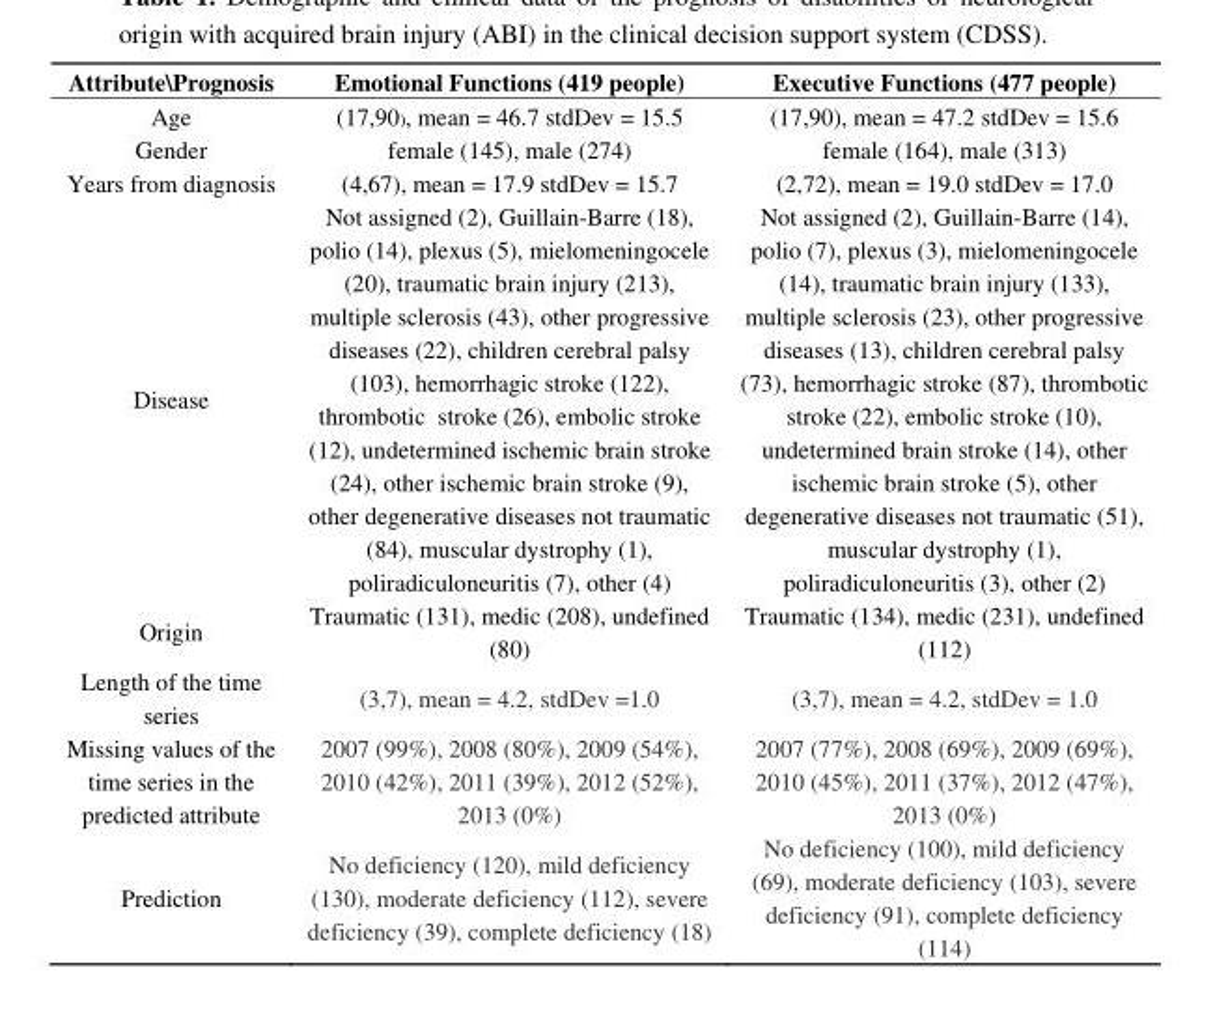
<table><thead><tr><td>Attribute\Prognosis</td><td>Emotional Functions (419 people)</td><td>Executive Functions (477 people)</td></tr></thead><tbody><tr><td>Age</td><td>(17,90), mean = 46.7 stdDev = 15.5</td><td>(17,90), mean = 47.2 stdDev = 15.6</td></tr><tr><td>Gender</td><td>female (145), male (274)</td><td>female (164), male (313)</td></tr><tr><td>Years from diagnosis</td><td>(4,67), mean = 17.9 stdDev = 15.7</td><td>(2,72), mean = 19.0 stdDev = 17.0</td></tr><tr><td>Disease</td><td>Not assigned (2), Guillain-Barre (18), polio (14), plexus (5), mielomeningocele (20), traumatic brain injury (213), multiple sclerosis (43), other progressive diseases (22), children cerebral palsy (103), hemorrhagic stroke (122), thrombotic stroke (26), embolic stroke (12), undetermined ischemic brain stroke (24), other ischemic brain stroke (9), other degenerative diseases not traumatic (84), muscular dystrophy (1), poliradiculoneuritis (7), other (4)</td><td>Not assigned (2), Guillain-Barre (14), polio (7), plexus (3), mielomeningocele (14), traumatic brain injury (133), multiple sclerosis (23), other progressive diseases (13), children cerebral palsy (73), hemorrhagic stroke (87), thrombotic stroke (22), embolic stroke (10), undetermined brain stroke (14), other ischemic brain stroke (5), other degenerative diseases not traumatic (51), muscular dystrophy (1), poliradiculoneuritis (3), other (2)</td></tr><tr><td>Origin</td><td>Traumatic (131), medic (208), undefined (80)</td><td>Traumatic (134), medic (231), undefined (112)</td></tr><tr><td>Length of the time series</td><td>(3,7), mean = 4.2, stdDev =1.0</td><td>(3,7), mean = 4.2, stdDev = 1.0</td></tr><tr><td>Missing values of the time series in the predicted attribute</td><td>2007 (99%), 2008 (80%), 2009 (54%), 2010 (42%), 2011 (39%), 2012 (52%), 2013 (0%)</td><td>2007 (77%), 2008 (69%), 2009 (69%), 2010 (45%), 2011 (37%), 2012 (47%), 2013 (0%)</td></tr><tr><td>Prediction</td><td>No deficiency (120), mild deficiency (130), moderate deficiency (112), severe deficiency (39), complete deficiency (18)</td><td>No deficiency (100), mild deficiency (69), moderate deficiency (103), severe deficiency (91), complete deficiency (114)</td></tr></tbody></table>